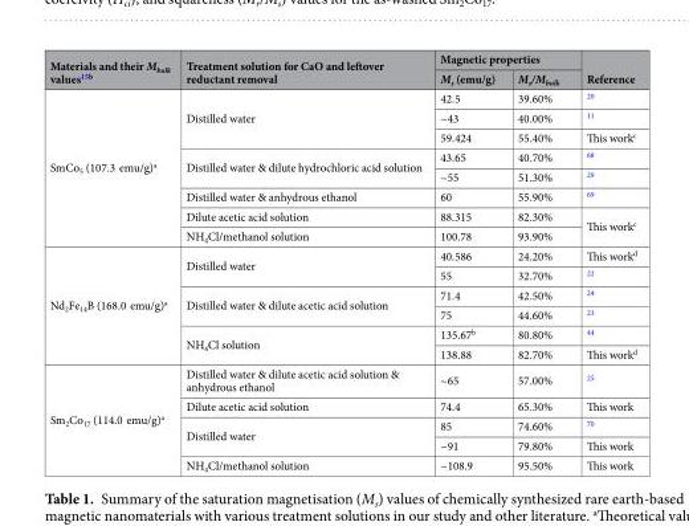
<table><thead><tr><td rowspan="2">Materials and their M<sub>bulk</sub> values<sup>15b</sup></td><td rowspan="2">Treatment solution for CaO and leftover reductant removal</td><td colspan="2">Magnetic properties</td><td rowspan="2">Reference</td></tr><tr><td>M<sub>s</sub> (emu/g)</td><td>M<sub>s</sub>/M<sub>bulk</sub></td></tr></thead><tbody><tr><td rowspan="8">SmCo<sub>5</sub> (107.3 emu/g)<sup>a</sup></td><td rowspan="3">Distilled water</td><td>42.5</td><td>39.60%</td><td><sup>20</sup></td></tr><tr><td>~43</td><td>40.00%</td><td><sup>11</sup></td></tr><tr><td>59.424</td><td>55.40%</td><td>This work<sup>c</sup></td></tr><tr><td rowspan="2">Distilled water &amp; dilute hydrochloric acid solution</td><td>43.65</td><td>40.70%</td><td><sup>68</sup></td></tr><tr><td>~55</td><td>51.30%</td><td><sup>29</sup></td></tr><tr><td>Distilled water &amp; anhydrous ethanol</td><td>60</td><td>55.90%</td><td><sup>69</sup></td></tr><tr><td>Dilute acetic acid solution</td><td>88.315</td><td>82.30%</td><td rowspan="2">This work<sup>c</sup></td></tr><tr><td>NH<sub>4</sub>Cl/methanol solution</td><td>100.78</td><td>93.90%</td></tr><tr><td rowspan="6">Nd<sub>2</sub>Fe<sub>14</sub>B (168.0 emu/g)<sup>a</sup></td><td rowspan="2">Distilled water</td><td>40.586</td><td>24.20%</td><td>This work<sup>d</sup></td></tr><tr><td>55</td><td>32.70%</td><td><sup>22</sup></td></tr><tr><td rowspan="2">Distilled water &amp; dilute acetic acid solution</td><td>71.4</td><td>42.50%</td><td><sup>24</sup></td></tr><tr><td>75</td><td>44.60%</td><td><sup>23</sup></td></tr><tr><td rowspan="2">NH<sub>4</sub>Cl solution</td><td>135.67<sup>b</sup></td><td>80.80%</td><td><sup>44</sup></td></tr><tr><td>138.88</td><td>82.70%</td><td>This work<sup>d</sup></td></tr><tr><td rowspan="5">Sm<sub>2</sub>Co<sub>17</sub> (114.0 emu/g)<sup>a</sup></td><td>Distilled water &amp; dilute acetic acid solution &amp; anhydrous ethanol</td><td>~65</td><td>57.00%</td><td><sup>25</sup></td></tr><tr><td>Dilute acetic acid solution</td><td>74.4</td><td>65.30%</td><td>This work</td></tr><tr><td rowspan="2">Distilled water</td><td>85</td><td>74.60%</td><td><sup>70</sup></td></tr><tr><td>~91</td><td>79.80%</td><td>This work</td></tr><tr><td>NH<sub>4</sub>Cl/methanol solution</td><td>~108.9</td><td>95.50%</td><td>This work</td></tr></tbody></table>